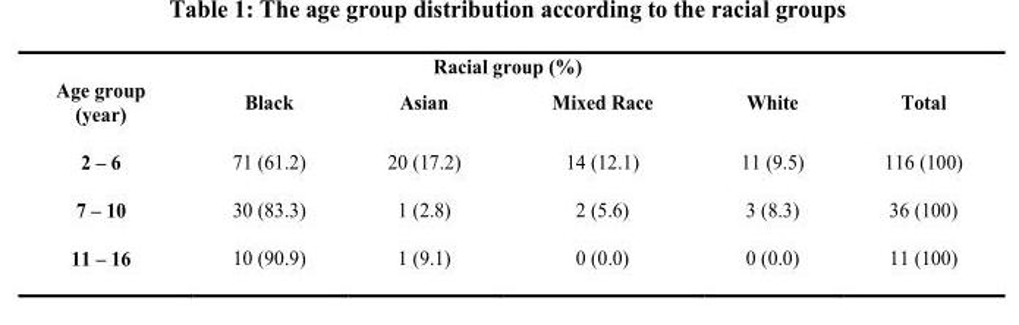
<table><thead><tr><td rowspan="2">Age group (year)</td><td colspan="5">Racial group (%)</td></tr><tr><td>Black</td><td>Asian</td><td>Mixed Race</td><td>White</td><td>Total</td></tr></thead><tbody><tr><td>2 – 6</td><td>71 (61.2)</td><td>20 (17.2)</td><td>14 (12.1)</td><td>11 (9.5)</td><td>116 (100)</td></tr><tr><td>7 – 10</td><td>30 (83.3)</td><td>1 (2.8)</td><td>2 (5.6)</td><td>3 (8.3)</td><td>36 (100)</td></tr><tr><td>11 – 16</td><td>10 (90.9)</td><td>1 (9.1)</td><td>0 (0.0)</td><td>0 (0.0)</td><td>11 (100)</td></tr></tbody></table>